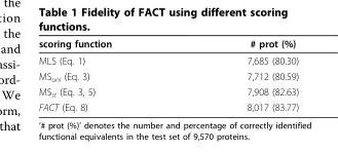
<table><thead><tr><td>scoring function</td><td># prot (%)</td></tr></thead><tbody><tr><td>MLS (Eq. 1)</td><td>7,685 (80.30)</td></tr><tr><td>MS<sub>uni</sub> (Eq. 3)</td><td>7,712 (80.59)</td></tr><tr><td>MS<sub>st</sub> (Eq. 3, 5)</td><td>7,908 (82.63)</td></tr><tr><td>FACT (Eq. 8)</td><td>8,017 (83.77)</td></tr></tbody></table>